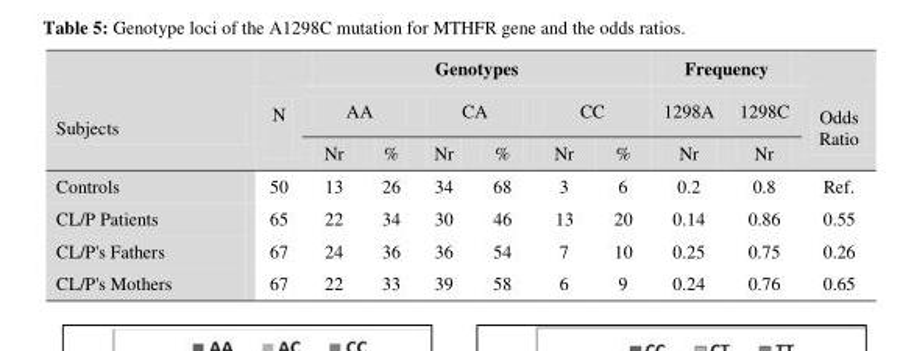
<table><thead><tr><td rowspan="3">Subjects</td><td rowspan="3">N</td><td colspan="6">Genotypes</td><td colspan="2">Frequency</td><td rowspan="3">Odds Ratio</td></tr><tr><td colspan="2">AA</td><td colspan="2">CA</td><td colspan="2">CC</td><td rowspan="2">1298A Nr</td><td rowspan="2">1298C Nr</td></tr><tr><td>Nr</td><td>%</td><td>Nr</td><td>%</td><td>Nr</td><td>%</td></tr></thead><tbody><tr><td>Controls</td><td>50</td><td>13</td><td>26</td><td>34</td><td>68</td><td>3</td><td>6</td><td>0.2</td><td>0.8</td><td>Ref.</td></tr><tr><td>CL/P Patients</td><td>65</td><td>22</td><td>34</td><td>30</td><td>46</td><td>13</td><td>20</td><td>0.14</td><td>0.86</td><td>0.55</td></tr><tr><td>CL/P&#x27;s Fathers</td><td>67</td><td>24</td><td>36</td><td>36</td><td>54</td><td>7</td><td>10</td><td>0.25</td><td>0.75</td><td>0.26</td></tr><tr><td>CL/P&#x27;s Mothers</td><td>67</td><td>22</td><td>33</td><td>39</td><td>58</td><td>6</td><td>9</td><td>0.24</td><td>0.76</td><td>0.65</td></tr></tbody></table>